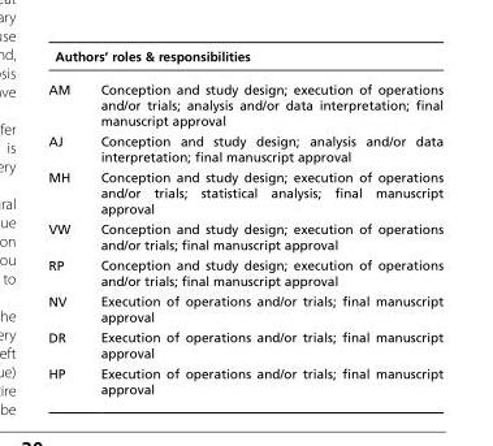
<table><thead><tr><td colspan="2">Authors’ roles &amp; responsibilities</td></tr><tr><td>AM</td><td>Conception and study design; execution of operations and/or trials; analysis and/or data interpretation; final manuscript approval</td></tr></thead><tbody><tr><td>AJ</td><td>Conception and study design; analysis and/or data interpretation; final manuscript approval</td></tr><tr><td>MH</td><td>Conception and study design; execution of operations and/or trials; statistical analysis; final manuscript approval</td></tr><tr><td>VW</td><td>Conception and study design; execution of operations and/or trials; final manuscript approval</td></tr><tr><td>RP</td><td>Conception and study design; execution of operations and/or trials; final manuscript approval</td></tr><tr><td>NV</td><td>Execution of operations and/or trials; final manuscript approval</td></tr><tr><td>DR</td><td>Execution of operations and/or trials; final manuscript approval</td></tr><tr><td>HP</td><td>Execution of operations and/or trials; final manuscript approval</td></tr></tbody></table>